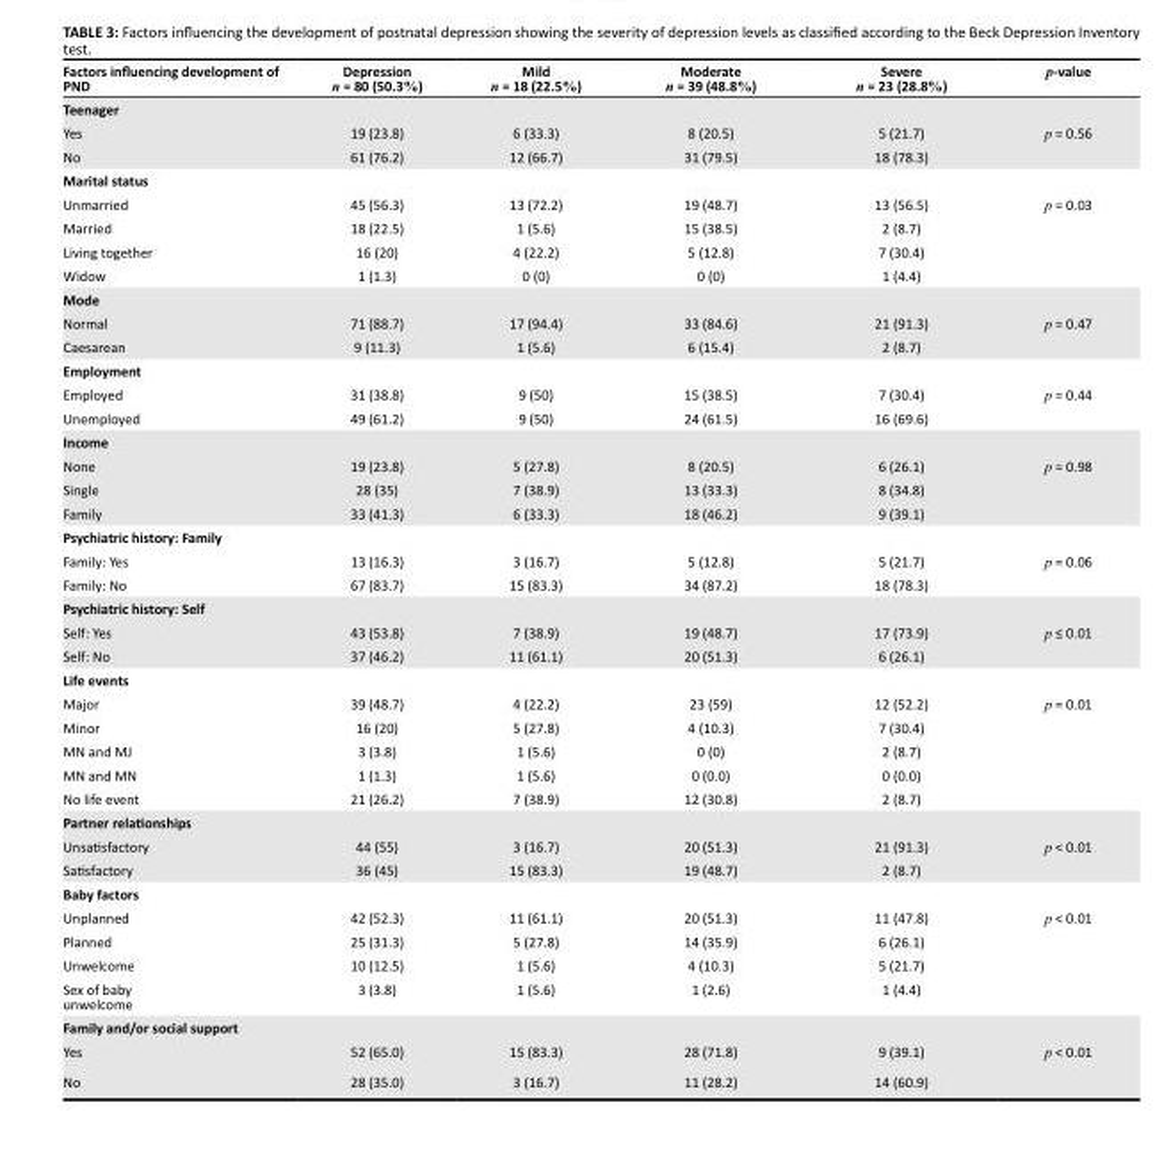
<table><thead><tr><td>Factors influencing development of PND</td><td>Depression n = 80 (50.3%)</td><td>Mild n = 18 (22.5%)</td><td>Moderate n = 39 (48.8%)</td><td>Severe n = 23 (28.8%)</td><td>p-value</td></tr></thead><tbody><tr><td colspan="6">Teenager</td></tr><tr><td>Yes</td><td>19 (23.8)</td><td>6 (33.3)</td><td>8 (20.5)</td><td>5 (21.7)</td><td>p = 0.56</td></tr><tr><td>No</td><td>61 (76.2)</td><td>12 (66.7)</td><td>31 (79.5)</td><td>18 (78.3)</td><td></td></tr><tr><td colspan="6">Marital status</td></tr><tr><td>Unmarried</td><td>45 (56.3)</td><td>13 (72.2)</td><td>19 (48.7)</td><td>13 (56.5)</td><td>p = 0.03</td></tr><tr><td>Married</td><td>18 (22.5)</td><td>1 (5.6)</td><td>15 (38.5)</td><td>2 (8.7)</td><td></td></tr><tr><td>Living together</td><td>16 (20)</td><td>4 (22.2)</td><td>5 (12.8)</td><td>7 (30.4)</td><td></td></tr><tr><td>Widow</td><td>1 (1.3)</td><td>0 (0)</td><td>0 (0)</td><td>1 (4.4)</td><td></td></tr><tr><td colspan="6">Mode</td></tr><tr><td>Normal</td><td>71 (88.7)</td><td>17 (94.4)</td><td>33 (84.6)</td><td>21 (91.3)</td><td>p = 0.47</td></tr><tr><td>Caesarean</td><td>9 (11.3)</td><td>1 (5.6)</td><td>6 (15.4)</td><td>2 (8.7)</td><td></td></tr><tr><td colspan="6">Employment</td></tr><tr><td>Employed</td><td>31 (38.8)</td><td>9 (50)</td><td>15 (38.5)</td><td>7 (30.4)</td><td>p = 0.44</td></tr><tr><td>Unemployed</td><td>49 (61.2)</td><td>9 (50)</td><td>24 (61.5)</td><td>16 (69.6)</td><td></td></tr><tr><td colspan="6">Income</td></tr><tr><td>None</td><td>19 (23.8)</td><td>5 (27.8)</td><td>8 (20.5)</td><td>6 (26.1)</td><td>p = 0.98</td></tr><tr><td>Single</td><td>28 (35)</td><td>7 (38.9)</td><td>13 (33.3)</td><td>8 (34.8)</td><td></td></tr><tr><td>Family</td><td>33 (41.3)</td><td>6 (33.3)</td><td>18 (46.2)</td><td>9 (39.1)</td><td></td></tr><tr><td colspan="6">Psychiatric history: Family</td></tr><tr><td>Family: Yes</td><td>13 (16.3)</td><td>3 (16.7)</td><td>5 (12.8)</td><td>5 (21.7)</td><td>p = 0.06</td></tr><tr><td>Family: No</td><td>67 (83.7)</td><td>15 (83.3)</td><td>34 (87.2)</td><td>18 (78.3)</td><td></td></tr><tr><td colspan="6">Psychiatric history: Self</td></tr><tr><td>Self: Yes</td><td>43 (53.8)</td><td>7 (38.9)</td><td>19 (48.7)</td><td>17 (73.9)</td><td>p ≤ 0.01</td></tr><tr><td>Self: No</td><td>37 (46.2)</td><td>11 (61.1)</td><td>20 (51.3)</td><td>6 (26.1)</td><td></td></tr><tr><td colspan="6">Life events</td></tr><tr><td>Major</td><td>39 (48.7)</td><td>4 (22.2)</td><td>23 (59)</td><td>12 (52.2)</td><td>p = 0.01</td></tr><tr><td>Minor</td><td>16 (20)</td><td>5 (27.8)</td><td>4 (10.3)</td><td>7 (30.4)</td><td></td></tr><tr><td>MN and MJ</td><td>3 (3.8)</td><td>1 (5.6)</td><td>0 (0)</td><td>2 (8.7)</td><td></td></tr><tr><td>MN and MN</td><td>1 (1.3)</td><td>1 (5.6)</td><td>0 (0.0)</td><td>0 (0.0)</td><td></td></tr><tr><td>No life event</td><td>21 (26.2)</td><td>7 (38.9)</td><td>12 (30.8)</td><td>2 (8.7)</td><td></td></tr><tr><td colspan="6">Partner relationships</td></tr><tr><td>Unsatisfactory</td><td>44 (55)</td><td>3 (16.7)</td><td>20 (51.3)</td><td>21 (91.3)</td><td>p &lt; 0.01</td></tr><tr><td>Satisfactory</td><td>36 (45)</td><td>15 (83.3)</td><td>19 (48.7)</td><td>2 (8.7)</td><td></td></tr><tr><td colspan="6">Baby factors</td></tr><tr><td>Unplanned</td><td>42 (52.3)</td><td>11 (61.1)</td><td>20 (51.3)</td><td>11 (47.8)</td><td>p &lt; 0.01</td></tr><tr><td>Planned</td><td>25 (31.3)</td><td>5 (27.8)</td><td>14 (35.9)</td><td>6 (26.1)</td><td></td></tr><tr><td>Unwelcome</td><td>10 (12.5)</td><td>1 (5.6)</td><td>4 (10.3)</td><td>5 (21.7)</td><td></td></tr><tr><td>Sex of baby unwelcome</td><td>3 (3.8)</td><td>1 (5.6)</td><td>1 (2.6)</td><td>1 (4.4)</td><td></td></tr><tr><td colspan="6">Family and/or social support</td></tr><tr><td>Yes</td><td>52 (65.0)</td><td>15 (83.3)</td><td>28 (71.8)</td><td>9 (39.1)</td><td>p &lt; 0.01</td></tr><tr><td>No</td><td>28 (35.0)</td><td>3 (16.7)</td><td>11 (28.2)</td><td>14 (60.9)</td><td></td></tr></tbody></table>